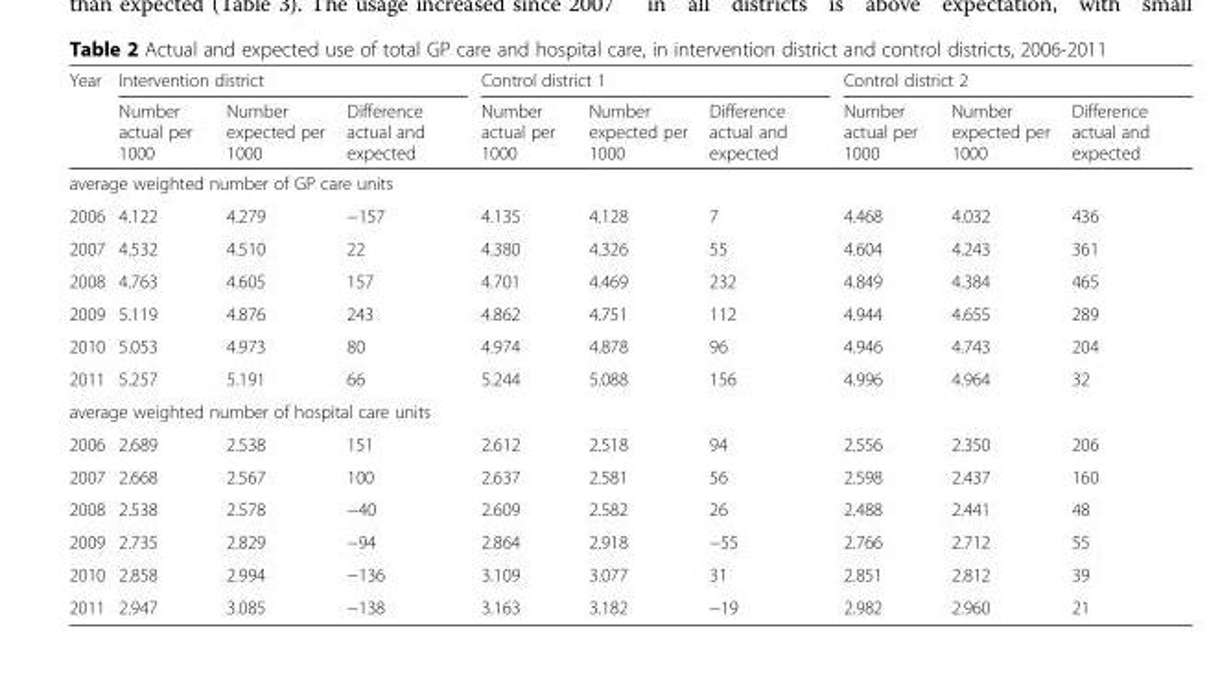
<table><thead><tr><td rowspan="2">Year</td><td colspan="3">Intervention district</td><td colspan="3">Control district 1</td><td colspan="3">Control district 2</td></tr><tr><td>Number actual per 1000</td><td>Number expected per 1000</td><td>Difference actual and expected</td><td>Number actual per 1000</td><td>Number expected per 1000</td><td>Difference actual and expected</td><td>Number actual per 1000</td><td>Number expected per 1000</td><td>Difference actual and expected</td></tr></thead><tbody><tr><td colspan="10">average weighted number of GP care units</td></tr><tr><td>2006</td><td>4.122</td><td>4.279</td><td>−157</td><td>4.135</td><td>4.128</td><td>7</td><td>4.468</td><td>4.032</td><td>436</td></tr><tr><td>2007</td><td>4.532</td><td>4.510</td><td>22</td><td>4.380</td><td>4.326</td><td>55</td><td>4.604</td><td>4.243</td><td>361</td></tr><tr><td>2008</td><td>4.763</td><td>4.605</td><td>157</td><td>4.701</td><td>4.469</td><td>232</td><td>4.849</td><td>4.384</td><td>465</td></tr><tr><td>2009</td><td>5.119</td><td>4.876</td><td>243</td><td>4.862</td><td>4.751</td><td>112</td><td>4.944</td><td>4.655</td><td>289</td></tr><tr><td>2010</td><td>5.053</td><td>4.973</td><td>80</td><td>4.974</td><td>4.878</td><td>96</td><td>4.946</td><td>4.743</td><td>204</td></tr><tr><td>2011</td><td>5.257</td><td>5.191</td><td>66</td><td>5.244</td><td>5.088</td><td>156</td><td>4.996</td><td>4.964</td><td>32</td></tr><tr><td colspan="10">average weighted number of hospital care units</td></tr><tr><td>2006</td><td>2.689</td><td>2.538</td><td>151</td><td>2.612</td><td>2.518</td><td>94</td><td>2.556</td><td>2.350</td><td>206</td></tr><tr><td>2007</td><td>2.668</td><td>2.567</td><td>100</td><td>2.637</td><td>2.581</td><td>56</td><td>2.598</td><td>2.437</td><td>160</td></tr><tr><td>2008</td><td>2.538</td><td>2.578</td><td>−40</td><td>2.609</td><td>2.582</td><td>26</td><td>2.488</td><td>2.441</td><td>48</td></tr><tr><td>2009</td><td>2.735</td><td>2.829</td><td>−94</td><td>2.864</td><td>2.918</td><td>−55</td><td>2.766</td><td>2.712</td><td>55</td></tr><tr><td>2010</td><td>2.858</td><td>2.994</td><td>−136</td><td>3.109</td><td>3.077</td><td>31</td><td>2.851</td><td>2.812</td><td>39</td></tr><tr><td>2011</td><td>2.947</td><td>3.085</td><td>−138</td><td>3.163</td><td>3.182</td><td>−19</td><td>2.982</td><td>2.960</td><td>21</td></tr></tbody></table>